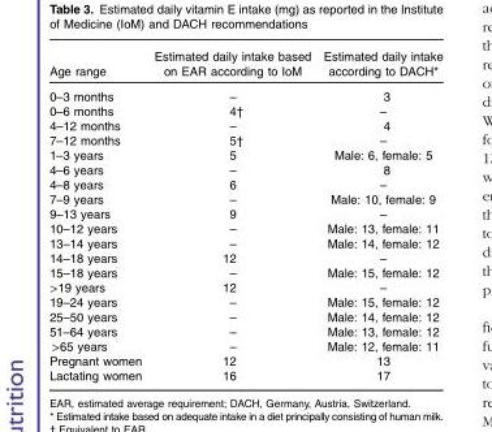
<table><thead><tr><td>Age range</td><td>Estimated daily intake based on EAR according to IoM</td><td>Estimated daily intake according to DACH*</td></tr></thead><tbody><tr><td>0–3 months</td><td>–</td><td>3</td></tr><tr><td>0–6 months</td><td>4†</td><td>–</td></tr><tr><td>4–12 months</td><td>–</td><td>4</td></tr><tr><td>7–12 months</td><td>5†</td><td>–</td></tr><tr><td>1–3 years</td><td>5</td><td>Male: 6, female: 5</td></tr><tr><td>4–6 years</td><td>–</td><td>8</td></tr><tr><td>4–8 years</td><td>6</td><td>–</td></tr><tr><td>7–9 years</td><td>–</td><td>Male: 10, female: 9</td></tr><tr><td>9–13 years</td><td>9</td><td>–</td></tr><tr><td>10–12 years</td><td>–</td><td>Male: 13, female: 11</td></tr><tr><td>13–14 years</td><td>–</td><td>Male: 14, female: 12</td></tr><tr><td>14–18 years</td><td>12</td><td>–</td></tr><tr><td>15–18 years</td><td>–</td><td>Male: 15, female: 12</td></tr><tr><td>&gt;19 years</td><td>12</td><td>–</td></tr><tr><td>19–24 years</td><td>–</td><td>Male: 15, female: 12</td></tr><tr><td>25–50 years</td><td>–</td><td>Male: 14, female: 12</td></tr><tr><td>51–64 years</td><td>–</td><td>Male: 13, female: 12</td></tr><tr><td>&gt;65 years</td><td>–</td><td>Male: 12, female: 11</td></tr><tr><td>Pregnant women</td><td>12</td><td>13</td></tr><tr><td>Lactating women</td><td>16</td><td>17</td></tr></tbody></table>